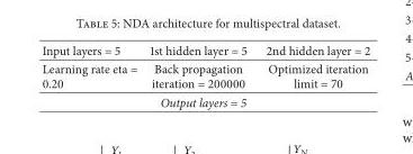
<table><thead><tr><td>Input layers = 5</td><td>1st hidden layer = 5</td><td>2nd hidden layer = 2</td></tr></thead><tbody><tr><td>Learning rate eta = 0.20</td><td>Back propagation iteration = 200000</td><td>Optimized iteration limit = 70</td></tr><tr><td colspan="3">Output layers = 5</td></tr></tbody></table>